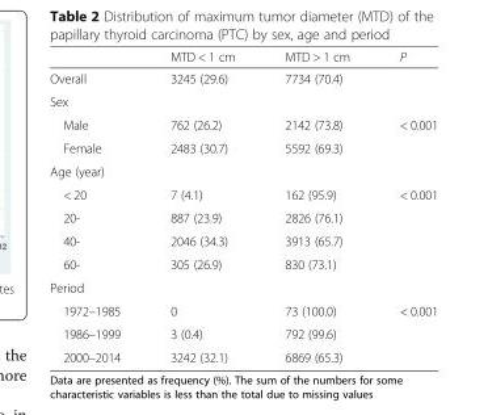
<table><thead><tr><td></td><td>MTD &lt; 1 cm</td><td>MTD &gt; 1 cm</td><td>P</td></tr></thead><tbody><tr><td>Overall</td><td>3245 (29.6)</td><td>7734 (70.4)</td><td></td></tr><tr><td colspan="4">Sex</td></tr><tr><td>Male</td><td>762 (26.2)</td><td>2142 (73.8)</td><td rowspan="2">&lt; 0.001</td></tr><tr><td>Female</td><td>2483 (30.7)</td><td>5592 (69.3)</td></tr><tr><td colspan="4">Age (year)</td></tr><tr><td>&lt; 20</td><td>7 (4.1)</td><td>162 (95.9)</td><td rowspan="4">&lt; 0.001</td></tr><tr><td>20-</td><td>887 (23.9)</td><td>2826 (76.1)</td></tr><tr><td>40-</td><td>2046 (34.3)</td><td>3913 (65.7)</td></tr><tr><td>60-</td><td>305 (26.9)</td><td>830 (73.1)</td></tr><tr><td colspan="4">Period</td></tr><tr><td>1972–1985</td><td>0</td><td>73 (100.0)</td><td rowspan="3">&lt; 0.001</td></tr><tr><td>1986–1999</td><td>3 (0.4)</td><td>792 (99.6)</td></tr><tr><td>2000–2014</td><td>3242 (32.1)</td><td>6869 (65.3)</td></tr></tbody></table>